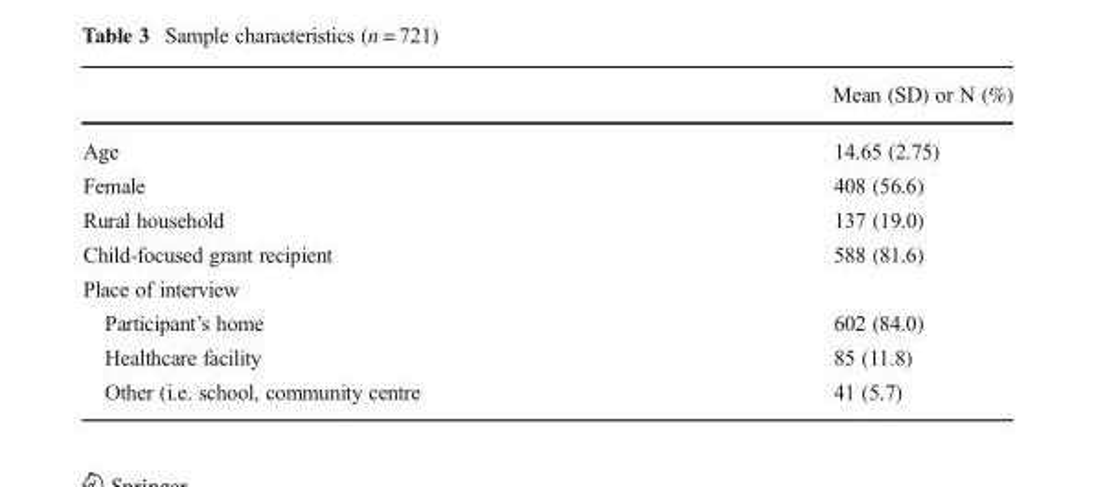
<table><thead><tr><td></td><td>Mean (SD) or N (%)</td></tr></thead><tbody><tr><td>Age</td><td>14.65 (2.75)</td></tr><tr><td>Female</td><td>408 (56.6)</td></tr><tr><td>Rural household</td><td>137 (19.0)</td></tr><tr><td>Child-focused grant recipient</td><td>588 (81.6)</td></tr><tr><td colspan="2">Place of interview</td></tr><tr><td>Participant’s home</td><td>602 (84.0)</td></tr><tr><td>Healthcare facility</td><td>85 (11.8)</td></tr><tr><td>Other (i.e. school, community centre</td><td>41 (5.7)</td></tr></tbody></table>